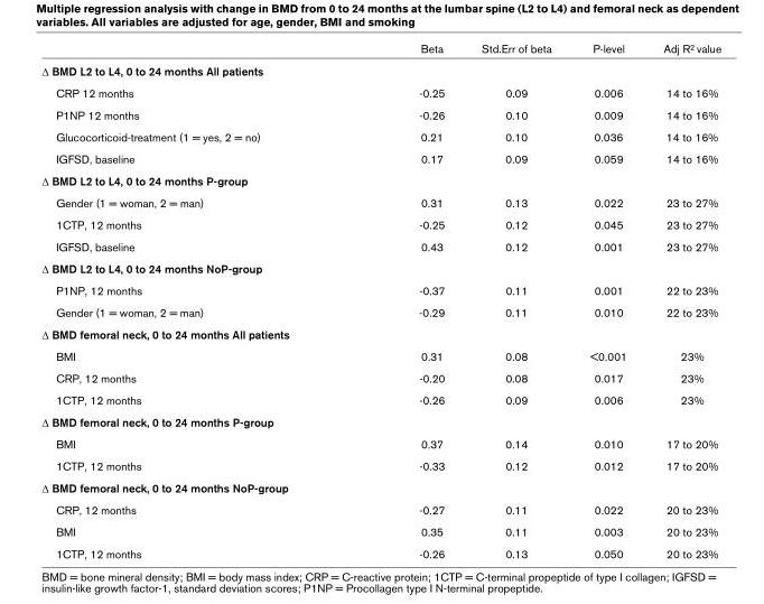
<table><thead><tr><td></td><td>Beta</td><td>Std.Err of beta</td><td>P-level</td><td>Adj R<sup>2</sup> value</td></tr></thead><tbody><tr><td colspan="5">Δ BMD L2 to L4, 0 to 24 months All patients</td></tr><tr><td>CRP 12 months</td><td>-0.25</td><td>0.09</td><td>0.006</td><td>14 to 16%</td></tr><tr><td>P1NP 12 months</td><td>-0.26</td><td>0.10</td><td>0.009</td><td>14 to 16%</td></tr><tr><td>Glucocorticoid-treatment (1 = yes, 2 = no)</td><td>0.21</td><td>0.10</td><td>0.036</td><td>14 to 16%</td></tr><tr><td>IGFSD, baseline</td><td>0.17</td><td>0.09</td><td>0.059</td><td>14 to 16%</td></tr><tr><td colspan="5">Δ BMD L2 to L4, 0 to 24 months P-group</td></tr><tr><td>Gender (1 = woman, 2 = man)</td><td>0.31</td><td>0.13</td><td>0.022</td><td>23 to 27%</td></tr><tr><td>1CTP, 12 months</td><td>-0.25</td><td>0.12</td><td>0.045</td><td>23 to 27%</td></tr><tr><td>IGFSD, baseline</td><td>0.43</td><td>0.12</td><td>0.001</td><td>23 to 27%</td></tr><tr><td colspan="5">Δ BMD L2 to L4, 0 to 24 months NoP-group</td></tr><tr><td>P1NP, 12 months</td><td>-0.37</td><td>0.11</td><td>0.001</td><td>22 to 23%</td></tr><tr><td>Gender (1 = woman, 2 = man)</td><td>-0.29</td><td>0.11</td><td>0.010</td><td>22 to 23%</td></tr><tr><td colspan="5">Δ BMD femoral neck, 0 to 24 months All patients</td></tr><tr><td>BMI</td><td>0.31</td><td>0.08</td><td>&lt;0.001</td><td>23%</td></tr><tr><td>CRP, 12 months</td><td>-0.20</td><td>0.08</td><td>0.017</td><td>23%</td></tr><tr><td>1CTP, 12 months</td><td>-0.26</td><td>0.09</td><td>0.006</td><td>23%</td></tr><tr><td colspan="5">Δ BMD femoral neck, 0 to 24 months P-group</td></tr><tr><td>BMI</td><td>0.37</td><td>0.14</td><td>0.010</td><td>17 to 20%</td></tr><tr><td>1CTP, 12 months</td><td>-0.33</td><td>0.12</td><td>0.012</td><td>17 to 20%</td></tr><tr><td colspan="5">Δ BMD femoral neck, 0 to 24 months NoP-group</td></tr><tr><td>CRP, 12 months</td><td>-0.27</td><td>0.11</td><td>0.022</td><td>20 to 23%</td></tr><tr><td>BMI</td><td>0.35</td><td>0.11</td><td>0.003</td><td>20 to 23%</td></tr><tr><td>1CTP, 12 months</td><td>-0.26</td><td>0.13</td><td>0.050</td><td>20 to 23%</td></tr></tbody></table>